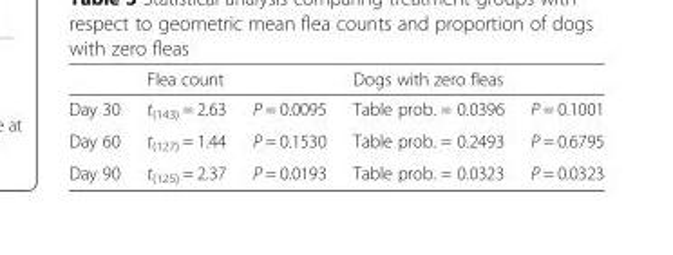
<table><thead><tr><td rowspan="2">Day 30</td><td colspan="2">Flea count</td><td colspan="2">Dogs with zero fleas</td></tr><tr><td>t<sub>(143)</sub> = 2.63</td><td>P = 0.0095</td><td>Table prob. = 0.0396</td><td>P = 0.1001</td></tr></thead><tbody><tr><td>Day 60</td><td>t<sub>(127)</sub> = 1.44</td><td>P = 0.1530</td><td>Table prob. = 0.2493</td><td>P = 0.6795</td></tr><tr><td>Day 90</td><td>t<sub>(125)</sub> = 2.37</td><td>P = 0.0193</td><td>Table prob. = 0.0323</td><td>P = 0.0323</td></tr></tbody></table>